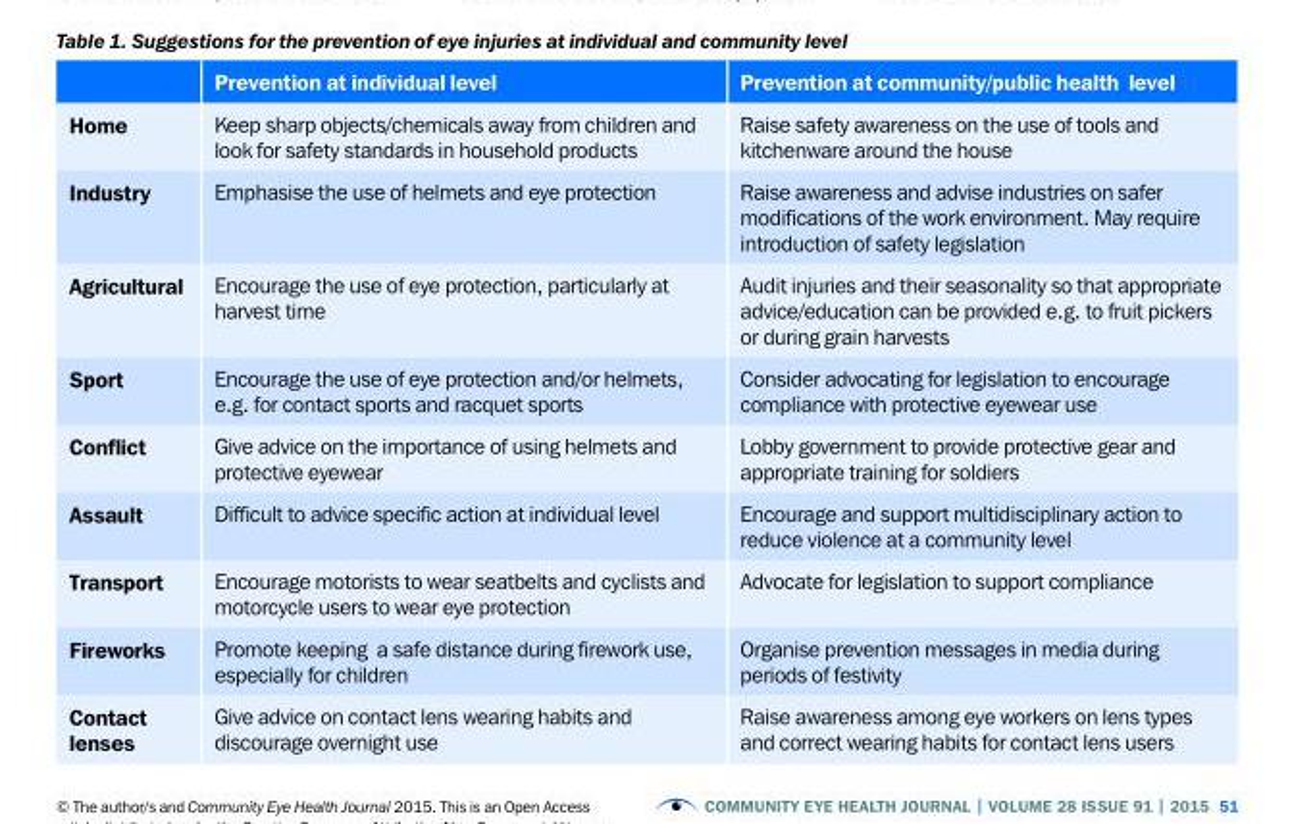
<table><thead><tr><td></td><td>Prevention at individual level</td><td>Prevention at community/public health level</td></tr></thead><tbody><tr><td>Home</td><td>Keep sharp objects/chemicals away from children and look for safety standards in household products</td><td>Raise safety awareness on the use of tools and kitchenware around the house</td></tr><tr><td>Industry</td><td>Emphasise the use of helmets and eye protection</td><td>Raise awareness and advise industries on safer modifications of the work environment. May require introduction of safety legislation</td></tr><tr><td>Agricultural</td><td>Encourage the use of eye protection, particularly at harvest time</td><td>Audit injuries and their seasonality so that appropriate advice/education can be provided e.g. to fruit pickers or during grain harvests</td></tr><tr><td>Sport</td><td>Encourage the use of eye protection and/or helmets, e.g. for contact sports and racquet sports</td><td>Consider advocating for legislation to encourage compliance with protective eyewear use</td></tr><tr><td>Conflict</td><td>Give advice on the importance of using helmets and protective eyewear</td><td>Lobby government to provide protective gear and appropriate training for soldiers</td></tr><tr><td>Assault</td><td>Difficult to advice specific action at individual level</td><td>Encourage and support multidisciplinary action to reduce violence at a community level</td></tr><tr><td>Transport</td><td>Encourage motorists to wear seatbelts and cyclists and motorcycle users to wear eye protection</td><td>Advocate for legislation to support compliance</td></tr><tr><td>Fireworks</td><td>Promote keeping a safe distance during firework use, especially for children</td><td>Organise prevention messages in media during periods of festivity</td></tr><tr><td>Contact lenses</td><td>Give advice on contact lens wearing habits and discourage overnight use</td><td>Raise awareness among eye workers on lens types and correct wearing habits for contact lens users</td></tr></tbody></table>